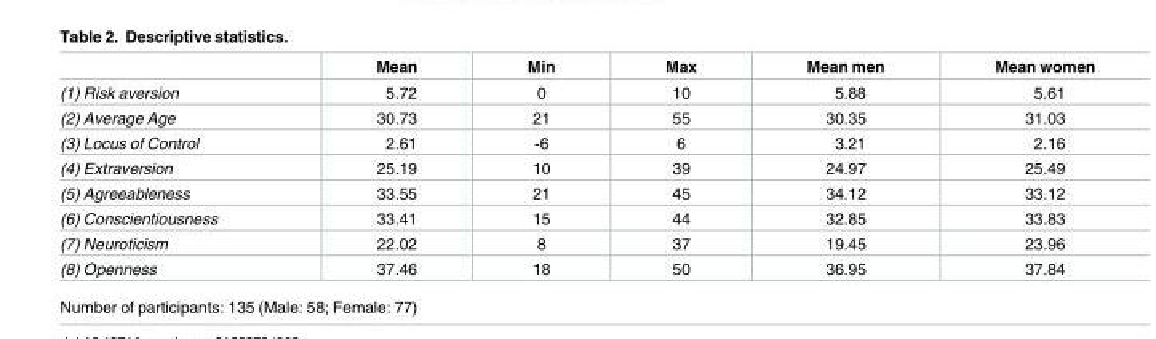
<table><thead><tr><td></td><td>Mean</td><td>Min</td><td>Max</td><td>Mean men</td><td>Mean women</td></tr></thead><tbody><tr><td>(1) Risk aversion</td><td>5.72</td><td>0</td><td>10</td><td>5.88</td><td>5.61</td></tr><tr><td>(2) Average Age</td><td>30.73</td><td>21</td><td>55</td><td>30.35</td><td>31.03</td></tr><tr><td>(3) Locus of Control</td><td>2.61</td><td>-6</td><td>6</td><td>3.21</td><td>2.16</td></tr><tr><td>(4) Extraversion</td><td>25.19</td><td>10</td><td>39</td><td>24.97</td><td>25.49</td></tr><tr><td>(5) Agreeableness</td><td>33.55</td><td>21</td><td>45</td><td>34.12</td><td>33.12</td></tr><tr><td>(6) Conscientiousness</td><td>33.41</td><td>15</td><td>44</td><td>32.85</td><td>33.83</td></tr><tr><td>(7) Neuroticism</td><td>22.02</td><td>8</td><td>37</td><td>19.45</td><td>23.96</td></tr><tr><td>(8) Openness</td><td>37.46</td><td>18</td><td>50</td><td>36.95</td><td>37.84</td></tr></tbody></table>